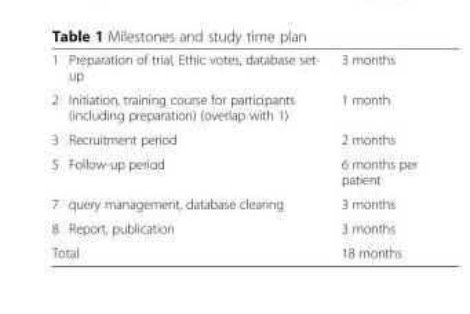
<table><tbody><tr><td>1</td><td>Preparation of trial, Ethic votes, database set- up</td><td>3 months</td></tr><tr><td>2</td><td>Initiation, training course for participants (including preparation) (overlap with 1)</td><td>1 month</td></tr><tr><td>3</td><td>Recruitment period</td><td>2 months</td></tr><tr><td>5</td><td>Follow-up period</td><td>6 months per patient</td></tr><tr><td>7</td><td>query management, database clearing</td><td>3 months</td></tr><tr><td>8</td><td>Report, publication</td><td>3 months</td></tr><tr><td colspan="2">Total</td><td>18 months</td></tr></tbody></table>